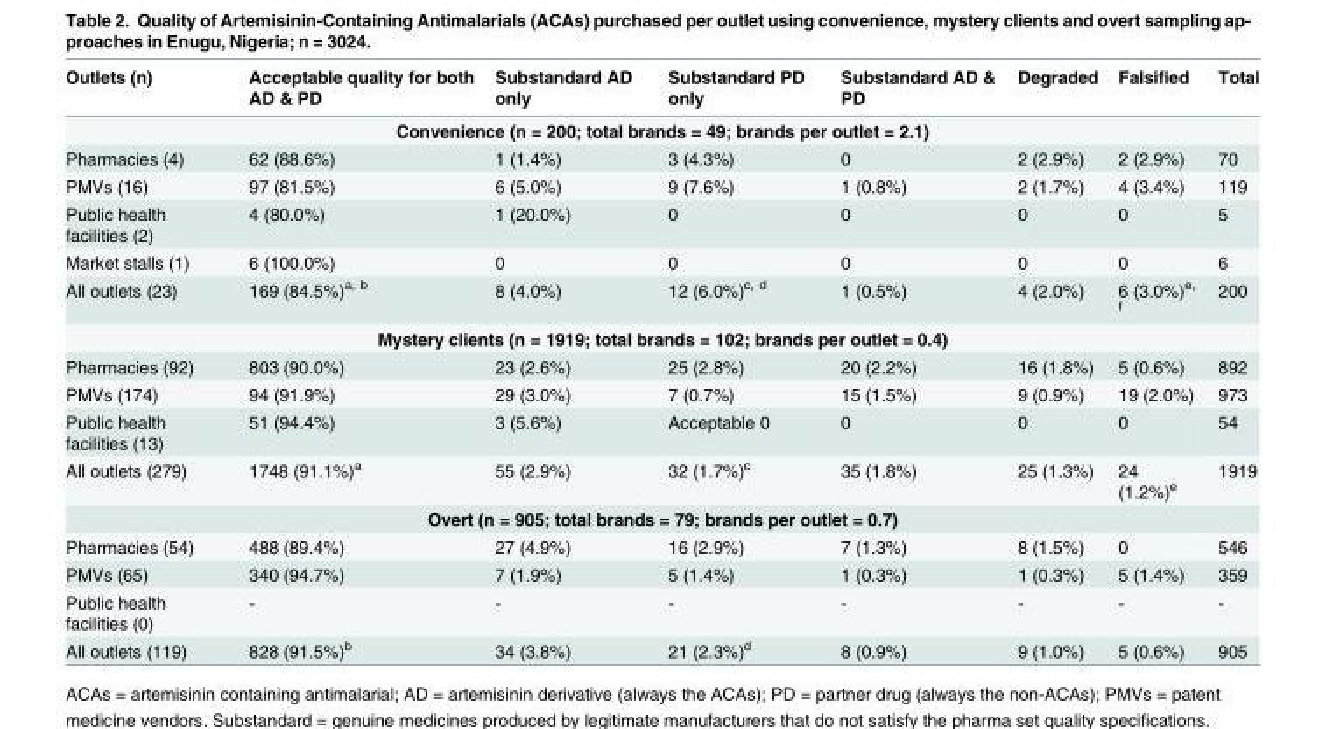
<table><thead><tr><td>Outlets (n)</td><td>Acceptable quality for both AD &amp; PD</td><td>Substandard AD only</td><td>Substandard PD only</td><td>Substandard AD &amp; PD</td><td>Degraded</td><td>Falsified</td><td>Total</td></tr></thead><tbody><tr><td colspan="8">Convenience (n = 200; total brands = 49; brands per outlet = 2.1)</td></tr><tr><td>Pharmacies (4)</td><td>62 (88.6%)</td><td>1 (1.4%)</td><td>3 (4.3%)</td><td>0</td><td>2 (2.9%)</td><td>2 (2.9%)</td><td>70</td></tr><tr><td>PMVs (16)</td><td>97 (81.5%)</td><td>6 (5.0%)</td><td>9 (7.6%)</td><td>1 (0.8%)</td><td>2 (1.7%)</td><td>4 (3.4%)</td><td>119</td></tr><tr><td>Public health facilities (2)</td><td>4 (80.0%)</td><td>1 (20.0%)</td><td>0</td><td>0</td><td>0</td><td>0</td><td>5</td></tr><tr><td>Market stalls (1)</td><td>6 (100.0%)</td><td>0</td><td>0</td><td>0</td><td>0</td><td>0</td><td>6</td></tr><tr><td>All outlets (23)</td><td>169 (84.5%)<sup>a, b</sup></td><td>8 (4.0%)</td><td>12 (6.0%)<sup>c, d</sup></td><td>1 (0.5%)</td><td>4 (2.0%)</td><td>6 (3.0%)<sup>e, f</sup></td><td>200</td></tr><tr><td colspan="8">Mystery clients (n = 1919; total brands = 102; brands per outlet = 0.4)</td></tr><tr><td>Pharmacies (92)</td><td>803 (90.0%)</td><td>23 (2.6%)</td><td>25 (2.8%)</td><td>20 (2.2%)</td><td>16 (1.8%)</td><td>5 (0.6%)</td><td>892</td></tr><tr><td>PMVs (174)</td><td>94 (91.9%)</td><td>29 (3.0%)</td><td>7 (0.7%)</td><td>15 (1.5%)</td><td>9 (0.9%)</td><td>19 (2.0%)</td><td>973</td></tr><tr><td>Public health facilities (13)</td><td>51 (94.4%)</td><td>3 (5.6%)</td><td>Acceptable 0</td><td>0</td><td>0</td><td>0</td><td>54</td></tr><tr><td>All outlets (279)</td><td>1748 (91.1%)<sup>a</sup></td><td>55 (2.9%)</td><td>32 (1.7%)<sup>c</sup></td><td>35 (1.8%)</td><td>25 (1.3%)</td><td>24 (1.2%)<sup>e</sup></td><td>1919</td></tr><tr><td colspan="8">Overt (n = 905; total brands = 79; brands per outlet = 0.7)</td></tr><tr><td>Pharmacies (54)</td><td>488 (89.4%)</td><td>27 (4.9%)</td><td>16 (2.9%)</td><td>7 (1.3%)</td><td>8 (1.5%)</td><td>0</td><td>546</td></tr><tr><td>PMVs (65)</td><td>340 (94.7%)</td><td>7 (1.9%)</td><td>5 (1.4%)</td><td>1 (0.3%)</td><td>1 (0.3%)</td><td>5 (1.4%)</td><td>359</td></tr><tr><td>Public health facilities (0)</td><td>-</td><td>-</td><td>-</td><td>-</td><td>-</td><td>-</td><td>-</td></tr><tr><td>All outlets (119)</td><td>828 (91.5%)<sup>b</sup></td><td>34 (3.8%)</td><td>21 (2.3%)<sup>d</sup></td><td>8 (0.9%)</td><td>9 (1.0%)</td><td>5 (0.6%)</td><td>905</td></tr></tbody></table>